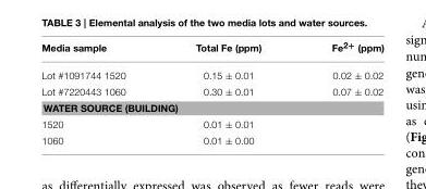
<table><thead><tr><td>Media sample</td><td>Total Fe (ppm)</td><td>Fe<sup>2+</sup> (ppm)</td></tr></thead><tbody><tr><td>Lot #1091744 1520</td><td>0.15 ± 0.01</td><td>0.02 ± 0.02</td></tr><tr><td>Lot #7220443 1060</td><td>0.30 ± 0.01</td><td>0.07 ± 0.02</td></tr><tr><td colspan="3">WATER SOURCE (BUILDING)</td></tr><tr><td>1520</td><td>0.01 ± 0.01</td><td></td></tr><tr><td>1060</td><td>0.01 ± 0.00</td><td></td></tr></tbody></table>